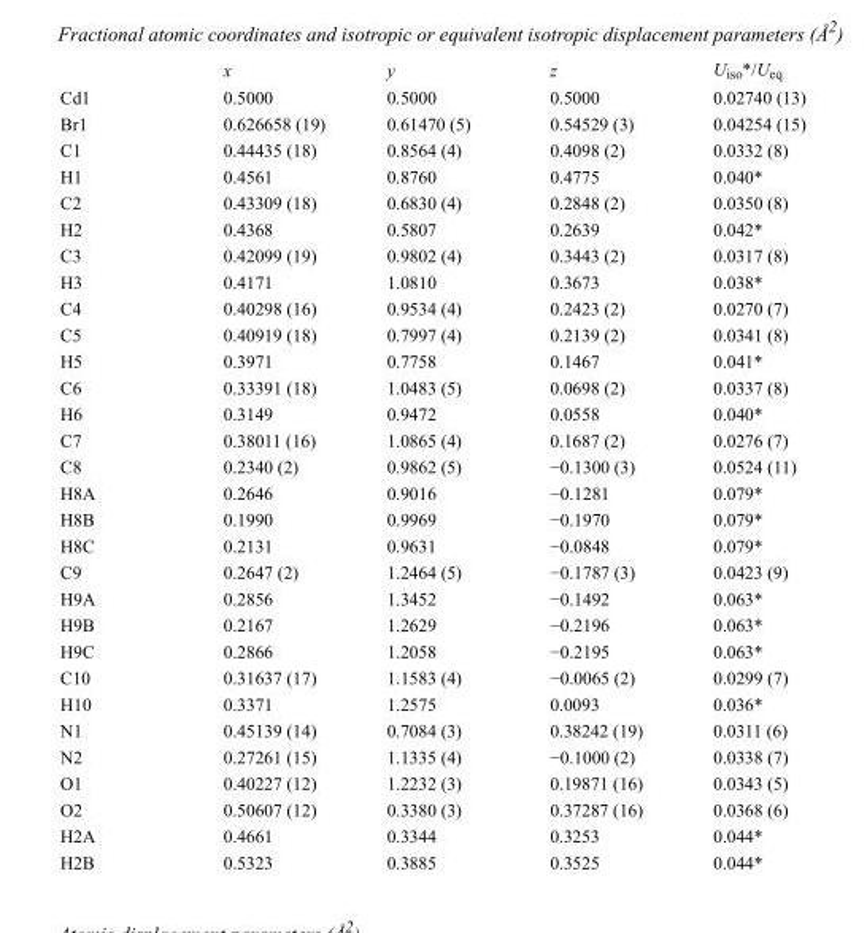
<table><thead><tr><td></td><td>x</td><td>y</td><td>z</td><td>U<sub>iso</sub>*/U<sub>eq</sub></td></tr></thead><tbody><tr><td>Cd1</td><td>0.5000</td><td>0.5000</td><td>0.5000</td><td>0.02740 (13)</td></tr><tr><td>Br1</td><td>0.626658 (19)</td><td>0.61470 (5)</td><td>0.54529 (3)</td><td>0.04254 (15)</td></tr><tr><td>C1</td><td>0.44435 (18)</td><td>0.8564 (4)</td><td>0.4098 (2)</td><td>0.0332 (8)</td></tr><tr><td>H1</td><td>0.4561</td><td>0.8760</td><td>0.4775</td><td>0.040*</td></tr><tr><td>C2</td><td>0.43309 (18)</td><td>0.6830 (4)</td><td>0.2848 (2)</td><td>0.0350 (8)</td></tr><tr><td>H2</td><td>0.4368</td><td>0.5807</td><td>0.2639</td><td>0.042*</td></tr><tr><td>C3</td><td>0.42099 (19)</td><td>0.9802 (4)</td><td>0.3443 (2)</td><td>0.0317 (8)</td></tr><tr><td>H3</td><td>0.4171</td><td>1.0810</td><td>0.3673</td><td>0.038*</td></tr><tr><td>C4</td><td>0.40298 (16)</td><td>0.9534 (4)</td><td>0.2423 (2)</td><td>0.0270 (7)</td></tr><tr><td>C5</td><td>0.40919 (18)</td><td>0.7997 (4)</td><td>0.2139 (2)</td><td>0.0341 (8)</td></tr><tr><td>H5</td><td>0.3971</td><td>0.7758</td><td>0.1467</td><td>0.041*</td></tr><tr><td>C6</td><td>0.33391 (18)</td><td>1.0483 (5)</td><td>0.0698 (2)</td><td>0.0337 (8)</td></tr><tr><td>H6</td><td>0.3149</td><td>0.9472</td><td>0.0558</td><td>0.040*</td></tr><tr><td>C7</td><td>0.38011 (16)</td><td>1.0865 (4)</td><td>0.1687 (2)</td><td>0.0276 (7)</td></tr><tr><td>C8</td><td>0.2340 (2)</td><td>0.9862 (5)</td><td>−0.1300 (3)</td><td>0.0524 (11)</td></tr><tr><td>H8A</td><td>0.2646</td><td>0.9016</td><td>−0.1281</td><td>0.079*</td></tr><tr><td>H8B</td><td>0.1990</td><td>0.9969</td><td>−0.1970</td><td>0.079*</td></tr><tr><td>H8C</td><td>0.2131</td><td>0.9631</td><td>−0.0848</td><td>0.079*</td></tr><tr><td>C9</td><td>0.2647 (2)</td><td>1.2464 (5)</td><td>−0.1787 (3)</td><td>0.0423 (9)</td></tr><tr><td>H9A</td><td>0.2856</td><td>1.3452</td><td>−0.1492</td><td>0.063*</td></tr><tr><td>H9B</td><td>0.2167</td><td>1.2629</td><td>−0.2196</td><td>0.063*</td></tr><tr><td>H9C</td><td>0.2866</td><td>1.2058</td><td>−0.2195</td><td>0.063*</td></tr><tr><td>C10</td><td>0.31637 (17)</td><td>1.1583 (4)</td><td>−0.0065 (2)</td><td>0.0299 (7)</td></tr><tr><td>H10</td><td>0.3371</td><td>1.2575</td><td>0.0093</td><td>0.036*</td></tr><tr><td>N1</td><td>0.45139 (14)</td><td>0.7084 (3)</td><td>0.38242 (19)</td><td>0.0311 (6)</td></tr><tr><td>N2</td><td>0.27261 (15)</td><td>1.1335 (4)</td><td>−0.1000 (2)</td><td>0.0338 (7)</td></tr><tr><td>O1</td><td>0.40227 (12)</td><td>1.2232 (3)</td><td>0.19871 (16)</td><td>0.0343 (5)</td></tr><tr><td>O2</td><td>0.50607 (12)</td><td>0.3380 (3)</td><td>0.37287 (16)</td><td>0.0368 (6)</td></tr><tr><td>H2A</td><td>0.4661</td><td>0.3344</td><td>0.3253</td><td>0.044*</td></tr><tr><td>H2B</td><td>0.5323</td><td>0.3885</td><td>0.3525</td><td>0.044*</td></tr></tbody></table>